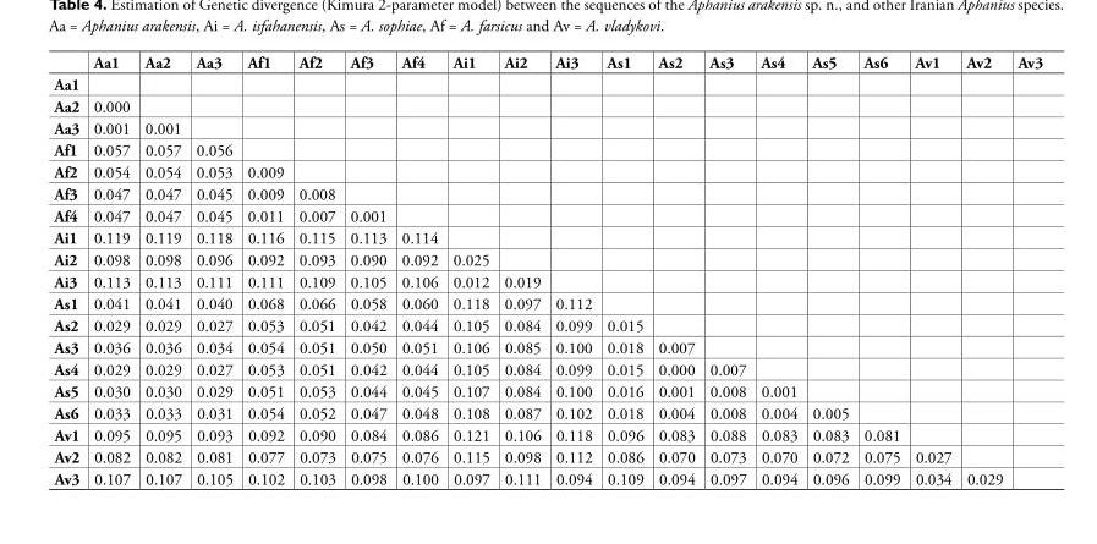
<table><thead><tr><td></td><td>Aa1</td><td>Aa2</td><td>Aa3</td><td>Af1</td><td>Af2</td><td>Af3</td><td>Af4</td><td>Ai1</td><td>Ai2</td><td>Ai3</td><td>As1</td><td>As2</td><td>As3</td><td>As4</td><td>As5</td><td>As6</td><td>Av1</td><td>Av2</td><td>Av3</td></tr></thead><tbody><tr><td colspan="20">Aa1</td></tr><tr><td>Aa2</td><td>0.000</td><td></td><td></td><td></td><td></td><td></td><td></td><td></td><td></td><td></td><td></td><td></td><td></td><td></td><td></td><td></td><td></td><td></td><td></td></tr><tr><td>Aa3</td><td>0.001</td><td>0.001</td><td></td><td></td><td></td><td></td><td></td><td></td><td></td><td></td><td></td><td></td><td></td><td></td><td></td><td></td><td></td><td></td><td></td></tr><tr><td>Af1</td><td>0.057</td><td>0.057</td><td>0.056</td><td></td><td></td><td></td><td></td><td></td><td></td><td></td><td></td><td></td><td></td><td></td><td></td><td></td><td></td><td></td><td></td></tr><tr><td>Af2</td><td>0.054</td><td>0.054</td><td>0.053</td><td>0.009</td><td></td><td></td><td></td><td></td><td></td><td></td><td></td><td></td><td></td><td></td><td></td><td></td><td></td><td></td><td></td></tr><tr><td>Af3</td><td>0.047</td><td>0.047</td><td>0.045</td><td>0.009</td><td>0.008</td><td></td><td></td><td></td><td></td><td></td><td></td><td></td><td></td><td></td><td></td><td></td><td></td><td></td><td></td></tr><tr><td>Af4</td><td>0.047</td><td>0.047</td><td>0.045</td><td>0.011</td><td>0.007</td><td>0.001</td><td></td><td></td><td></td><td></td><td></td><td></td><td></td><td></td><td></td><td></td><td></td><td></td><td></td></tr><tr><td>Ai1</td><td>0.119</td><td>0.119</td><td>0.118</td><td>0.116</td><td>0.115</td><td>0.113</td><td>0.114</td><td></td><td></td><td></td><td></td><td></td><td></td><td></td><td></td><td></td><td></td><td></td><td></td></tr><tr><td>Ai2</td><td>0.098</td><td>0.098</td><td>0.096</td><td>0.092</td><td>0.093</td><td>0.090</td><td>0.092</td><td>0.025</td><td></td><td></td><td></td><td></td><td></td><td></td><td></td><td></td><td></td><td></td><td></td></tr><tr><td>Ai3</td><td>0.113</td><td>0.113</td><td>0.111</td><td>0.111</td><td>0.109</td><td>0.105</td><td>0.106</td><td>0.012</td><td>0.019</td><td></td><td></td><td></td><td></td><td></td><td></td><td></td><td></td><td></td><td></td></tr><tr><td>As1</td><td>0.041</td><td>0.041</td><td>0.040</td><td>0.068</td><td>0.066</td><td>0.058</td><td>0.060</td><td>0.118</td><td>0.097</td><td>0.112</td><td></td><td></td><td></td><td></td><td></td><td></td><td></td><td></td><td></td></tr><tr><td>As2</td><td>0.029</td><td>0.029</td><td>0.027</td><td>0.053</td><td>0.051</td><td>0.042</td><td>0.044</td><td>0.105</td><td>0.084</td><td>0.099</td><td>0.015</td><td></td><td></td><td></td><td></td><td></td><td></td><td></td><td></td></tr><tr><td>As3</td><td>0.036</td><td>0.036</td><td>0.034</td><td>0.054</td><td>0.051</td><td>0.050</td><td>0.051</td><td>0.106</td><td>0.085</td><td>0.100</td><td>0.018</td><td>0.007</td><td></td><td></td><td></td><td></td><td></td><td></td><td></td></tr><tr><td>As4</td><td>0.029</td><td>0.029</td><td>0.027</td><td>0.053</td><td>0.051</td><td>0.042</td><td>0.044</td><td>0.105</td><td>0.084</td><td>0.099</td><td>0.015</td><td>0.000</td><td>0.007</td><td></td><td></td><td></td><td></td><td></td><td></td></tr><tr><td>As5</td><td>0.030</td><td>0.030</td><td>0.029</td><td>0.051</td><td>0.053</td><td>0.044</td><td>0.045</td><td>0.107</td><td>0.084</td><td>0.100</td><td>0.016</td><td>0.001</td><td>0.008</td><td>0.001</td><td></td><td></td><td></td><td></td><td></td></tr><tr><td>As6</td><td>0.033</td><td>0.033</td><td>0.031</td><td>0.054</td><td>0.052</td><td>0.047</td><td>0.048</td><td>0.108</td><td>0.087</td><td>0.102</td><td>0.018</td><td>0.004</td><td>0.008</td><td>0.004</td><td>0.005</td><td></td><td></td><td></td><td></td></tr><tr><td>Av1</td><td>0.095</td><td>0.095</td><td>0.093</td><td>0.092</td><td>0.090</td><td>0.084</td><td>0.086</td><td>0.121</td><td>0.106</td><td>0.118</td><td>0.096</td><td>0.083</td><td>0.088</td><td>0.083</td><td>0.083</td><td>0.081</td><td></td><td></td><td></td></tr><tr><td>Av2</td><td>0.082</td><td>0.082</td><td>0.081</td><td>0.077</td><td>0.073</td><td>0.075</td><td>0.076</td><td>0.115</td><td>0.098</td><td>0.112</td><td>0.086</td><td>0.070</td><td>0.073</td><td>0.070</td><td>0.072</td><td>0.075</td><td>0.027</td><td></td><td></td></tr><tr><td>Av3</td><td>0.107</td><td>0.107</td><td>0.105</td><td>0.102</td><td>0.103</td><td>0.098</td><td>0.100</td><td>0.097</td><td>0.111</td><td>0.094</td><td>0.109</td><td>0.094</td><td>0.097</td><td>0.094</td><td>0.096</td><td>0.099</td><td>0.034</td><td>0.029</td><td></td></tr></tbody></table>